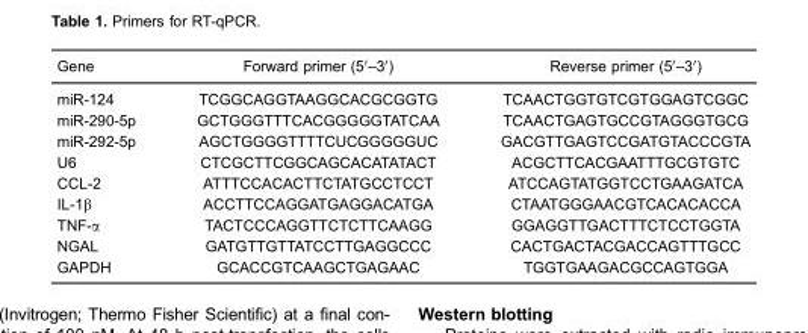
<table><thead><tr><td>Gene</td><td>Forward primer (5′–3′)</td><td>Reverse primer (5′–3′)</td></tr></thead><tbody><tr><td>miR-124</td><td>TCGGCAGGTAAGGCACGCGGTG</td><td>TCAACTGGTGTCGTGGAGTCGGC</td></tr><tr><td>miR-290-5p</td><td>GCTGGGTTTCACGGGGGTATCAA</td><td>TCAACTGAGTGCCGTAGGGTGCG</td></tr><tr><td>miR-292-5p</td><td>AGCTGGGGTTTTCUCGGGGGUC</td><td>GACGTTGAGTCCGATGTACCCGTA</td></tr><tr><td>U6</td><td>CTCGCTTCGGCAGCACATATACT</td><td>ACGCTTCACGAATTTGCGTGTC</td></tr><tr><td>CCL-2</td><td>ATTTCCACACTTCTATGCCTCCT</td><td>ATCCAGTATGGTCCTGAAGATCA</td></tr><tr><td>IL-1β</td><td>ACCTTCCAGGATGAGGACATGA</td><td>CTAATGGGAACGTCACACACCA</td></tr><tr><td>TNF-α</td><td>TACTCCCAGGTTCTCTTCAAGG</td><td>GGAGGTTGACTTTCTCCTGGTA</td></tr><tr><td>NGAL</td><td>GATGTTGTTATCCTTGAGGCCC</td><td>CACTGACTACGACCAGTTTGCC</td></tr><tr><td>GAPDH</td><td>GCACCGTCAAGCTGAGAAC</td><td>TGGTGAAGACGCCAGTGGA</td></tr></tbody></table>